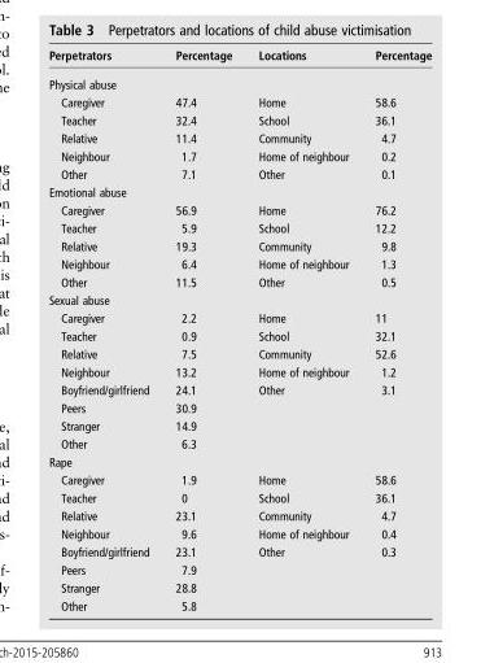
<table><thead><tr><td>Perpetrators</td><td>Percentage</td><td>Locations</td><td>Percentage</td></tr></thead><tbody><tr><td colspan="4">Physical abuse</td></tr><tr><td>Caregiver</td><td>47.4</td><td>Home</td><td>58.6</td></tr><tr><td>Teacher</td><td>32.4</td><td>School</td><td>36.1</td></tr><tr><td>Relative</td><td>11.4</td><td>Community</td><td>4.7</td></tr><tr><td>Neighbour</td><td>1.7</td><td>Home of neighbour</td><td>0.2</td></tr><tr><td>Other</td><td>7.1</td><td>Other</td><td>0.1</td></tr><tr><td colspan="4">Emotional abuse</td></tr><tr><td>Caregiver</td><td>56.9</td><td>Home</td><td>76.2</td></tr><tr><td>Teacher</td><td>5.9</td><td>School</td><td>12.2</td></tr><tr><td>Relative</td><td>19.3</td><td>Community</td><td>9.8</td></tr><tr><td>Neighbour</td><td>6.4</td><td>Home of neighbour</td><td>1.3</td></tr><tr><td>Other</td><td>11.5</td><td>Other</td><td>0.5</td></tr><tr><td colspan="4">Sexual abuse</td></tr><tr><td>Caregiver</td><td>2.2</td><td>Home</td><td>11</td></tr><tr><td>Teacher</td><td>0.9</td><td>School</td><td>32.1</td></tr><tr><td>Relative</td><td>7.5</td><td>Community</td><td>52.6</td></tr><tr><td>Neighbour</td><td>13.2</td><td>Home of neighbour</td><td>1.2</td></tr><tr><td>Boyfriend/girlfriend</td><td>24.1</td><td>Other</td><td>3.1</td></tr><tr><td>Peers</td><td>30.9</td><td></td><td></td></tr><tr><td>Stranger</td><td>14.9</td><td></td><td></td></tr><tr><td>Other</td><td>6.3</td><td></td><td></td></tr><tr><td colspan="4">Rape</td></tr><tr><td>Caregiver</td><td>1.9</td><td>Home</td><td>58.6</td></tr><tr><td>Teacher</td><td>0</td><td>School</td><td>36.1</td></tr><tr><td>Relative</td><td>23.1</td><td>Community</td><td>4.7</td></tr><tr><td>Neighbour</td><td>9.6</td><td>Home of neighbour</td><td>0.4</td></tr><tr><td>Boyfriend/girlfriend</td><td>23.1</td><td>Other</td><td>0.3</td></tr><tr><td>Peers</td><td>7.9</td><td></td><td></td></tr><tr><td>Stranger</td><td>28.8</td><td></td><td></td></tr><tr><td>Other</td><td>5.8</td><td></td><td></td></tr></tbody></table>